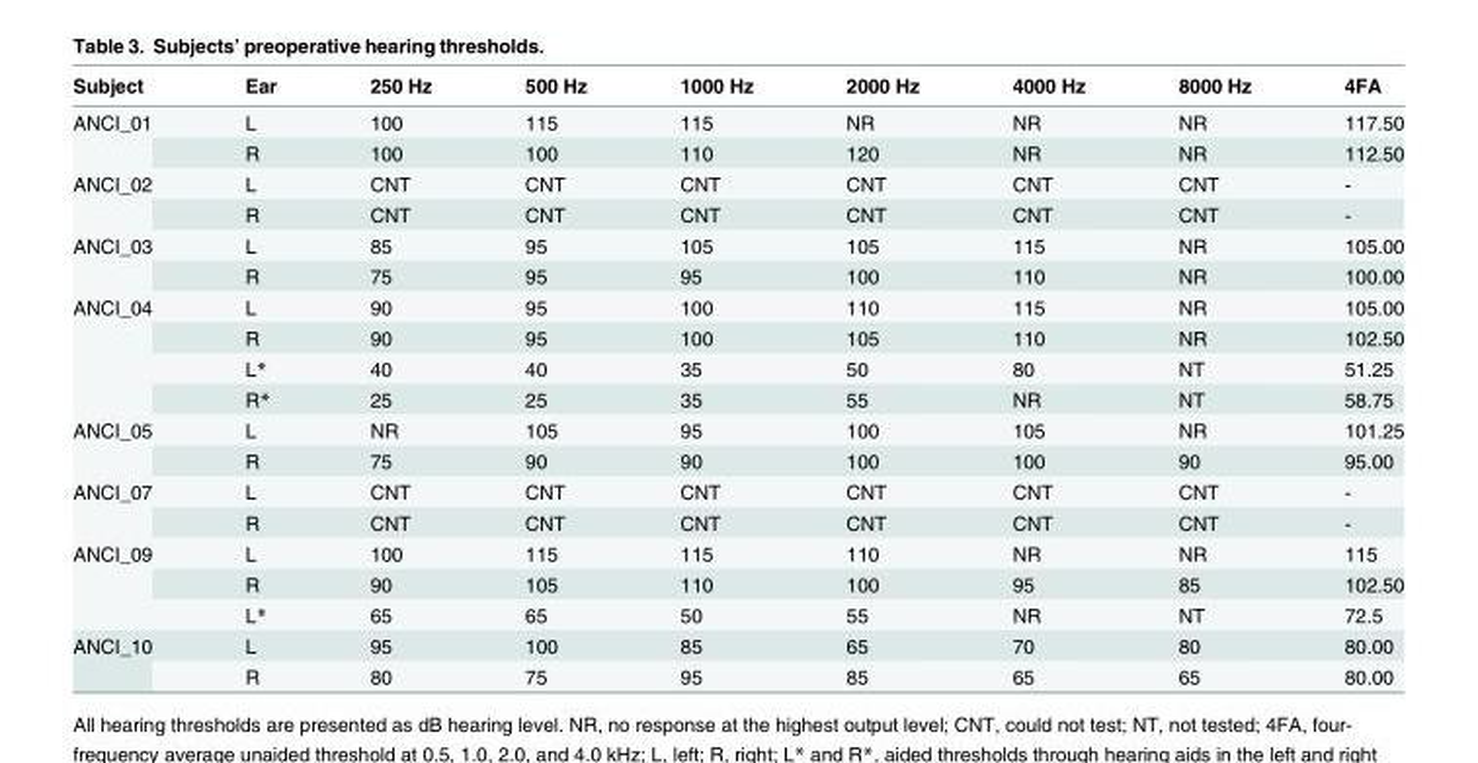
<table><thead><tr><td>Subject</td><td>Ear</td><td>250 Hz</td><td>500 Hz</td><td>1000 Hz</td><td>2000 Hz</td><td>4000 Hz</td><td>8000 Hz</td><td>4FA</td></tr></thead><tbody><tr><td rowspan="2">ANCI_01</td><td>L</td><td>100</td><td>115</td><td>115</td><td>NR</td><td>NR</td><td>NR</td><td>117.50</td></tr><tr><td>R</td><td>100</td><td>100</td><td>110</td><td>120</td><td>NR</td><td>NR</td><td>112.50</td></tr><tr><td rowspan="2">ANCI_02</td><td>L</td><td>CNT</td><td>CNT</td><td>CNT</td><td>CNT</td><td>CNT</td><td>CNT</td><td>-</td></tr><tr><td>R</td><td>CNT</td><td>CNT</td><td>CNT</td><td>CNT</td><td>CNT</td><td>CNT</td><td>-</td></tr><tr><td rowspan="2">ANCI_03</td><td>L</td><td>85</td><td>95</td><td>105</td><td>105</td><td>115</td><td>NR</td><td>105.00</td></tr><tr><td>R</td><td>75</td><td>95</td><td>95</td><td>100</td><td>110</td><td>NR</td><td>100.00</td></tr><tr><td rowspan="4">ANCI_04</td><td>L</td><td>90</td><td>95</td><td>100</td><td>110</td><td>115</td><td>NR</td><td>105.00</td></tr><tr><td>R</td><td>90</td><td>95</td><td>100</td><td>105</td><td>110</td><td>NR</td><td>102.50</td></tr><tr><td>L*</td><td>40</td><td>40</td><td>35</td><td>50</td><td>80</td><td>NT</td><td>51.25</td></tr><tr><td>R*</td><td>25</td><td>25</td><td>35</td><td>55</td><td>NR</td><td>NT</td><td>58.75</td></tr><tr><td rowspan="2">ANCI_05</td><td>L</td><td>NR</td><td>105</td><td>95</td><td>100</td><td>105</td><td>NR</td><td>101.25</td></tr><tr><td>R</td><td>75</td><td>90</td><td>90</td><td>100</td><td>100</td><td>90</td><td>95.00</td></tr><tr><td rowspan="2">ANCI_07</td><td>L</td><td>CNT</td><td>CNT</td><td>CNT</td><td>CNT</td><td>CNT</td><td>CNT</td><td>-</td></tr><tr><td>R</td><td>CNT</td><td>CNT</td><td>CNT</td><td>CNT</td><td>CNT</td><td>CNT</td><td>-</td></tr><tr><td rowspan="3">ANCI_09</td><td>L</td><td>100</td><td>115</td><td>115</td><td>110</td><td>NR</td><td>NR</td><td>115</td></tr><tr><td>R</td><td>90</td><td>105</td><td>110</td><td>100</td><td>95</td><td>85</td><td>102.50</td></tr><tr><td>L*</td><td>65</td><td>65</td><td>50</td><td>55</td><td>NR</td><td>NT</td><td>72.5</td></tr><tr><td rowspan="2">ANCI_10</td><td>L</td><td>95</td><td>100</td><td>85</td><td>65</td><td>70</td><td>80</td><td>80.00</td></tr><tr><td>R</td><td>80</td><td>75</td><td>95</td><td>85</td><td>65</td><td>65</td><td>80.00</td></tr></tbody></table>